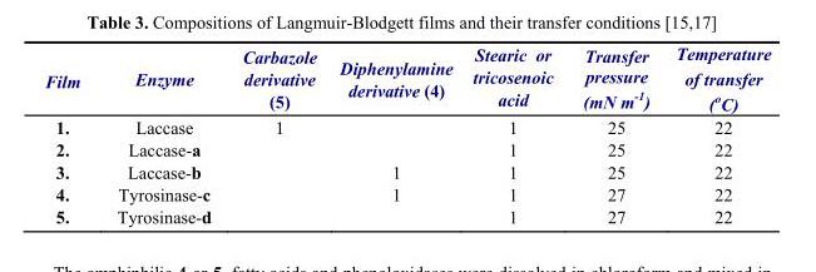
<table><thead><tr><td>Film</td><td>Enzyme</td><td>Carbazole derivative (5)</td><td>Diphenylamine derivative (4)</td><td>Stearic or tricosenoic acid</td><td>Transfer pressure (mN m<sup>-1</sup>)</td><td>Temperature of transfer (°C)</td></tr></thead><tbody><tr><td>1.</td><td>Laccase</td><td>1</td><td></td><td>1</td><td>25</td><td>22</td></tr><tr><td>2.</td><td>Laccase-a</td><td></td><td></td><td>1</td><td>25</td><td>22</td></tr><tr><td>3.</td><td>Laccase-b</td><td></td><td>1</td><td>1</td><td>25</td><td>22</td></tr><tr><td>4.</td><td>Tyrosinase-c</td><td></td><td>1</td><td>1</td><td>27</td><td>22</td></tr><tr><td>5.</td><td>Tyrosinase-d</td><td></td><td></td><td>1</td><td>27</td><td>22</td></tr></tbody></table>